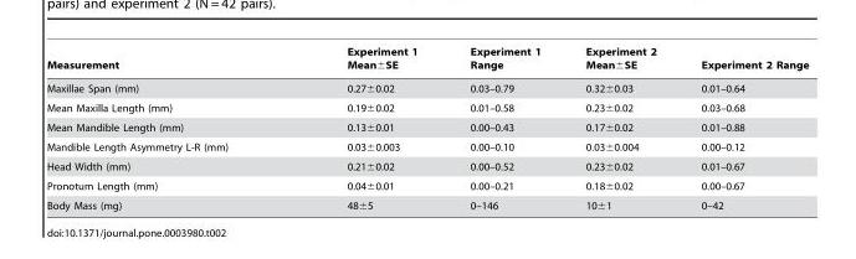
<table><thead><tr><td>Measurement</td><td>Experiment 1 Mean±SE</td><td>Experiment 1 Range</td><td>Experiment 2 Mean±SE</td><td>Experiment 2 Range</td></tr></thead><tbody><tr><td>Maxillae Span (mm)</td><td>0.27±0.02</td><td>0.03–0.79</td><td>0.32±0.03</td><td>0.01–0.64</td></tr><tr><td>Mean Maxilla Length (mm)</td><td>0.19±0.02</td><td>0.01–0.58</td><td>0.23±0.02</td><td>0.03–0.68</td></tr><tr><td>Mean Mandible Length (mm)</td><td>0.13±0.01</td><td>0.00–0.43</td><td>0.17±0.02</td><td>0.01–0.88</td></tr><tr><td>Mandible Length Asymmetry L-R (mm)</td><td>0.03±0.003</td><td>0.00–0.10</td><td>0.03±0.004</td><td>0.00–0.12</td></tr><tr><td>Head Width (mm)</td><td>0.21±0.02</td><td>0.00–0.52</td><td>0.23±0.02</td><td>0.01–0.67</td></tr><tr><td>Pronotum Length (mm)</td><td>0.04±0.01</td><td>0.00–0.21</td><td>0.18±0.02</td><td>0.00–0.67</td></tr><tr><td>Body Mass (mg)</td><td>48±5</td><td>0–146</td><td>10±1</td><td>0–42</td></tr></tbody></table>